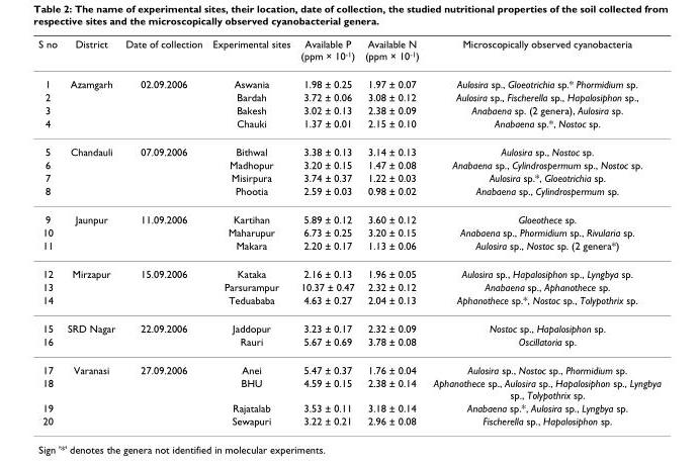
<table><thead><tr><td>S no</td><td>District</td><td>Date of collection</td><td>Experimental sites</td><td>Available P (ppm × 10<sup>-1</sup>)</td><td>Available N (ppm × 10<sup>-1</sup>)</td><td>Microscopically observed cyanobacteria</td></tr></thead><tbody><tr><td>1</td><td>Azamgarh</td><td>02.09.2006</td><td>Aswania</td><td>1.98 ± 0.25</td><td>1.97 ± 0.07</td><td>Aulosira sp., Gloeotrichia sp.* Phormidium sp.</td></tr><tr><td>2</td><td></td><td></td><td>Bardah</td><td>3.72 ± 0.06</td><td>3.08 ± 0.12</td><td>Aulosira sp., Fischerella sp., Hapalosiphon sp.,</td></tr><tr><td>3</td><td></td><td></td><td>Bakesh</td><td>3.02 ± 0.13</td><td>2.38 ± 0.09</td><td>Anabaena sp. (2 genera), Aulosira sp.</td></tr><tr><td>4</td><td></td><td></td><td>Chauki</td><td>1.37 ± 0.01</td><td>2.15 ± 0.10</td><td>Anabaena sp.*, Nostoc sp.</td></tr><tr><td>5</td><td>Chandauli</td><td>07.09.2006</td><td>Bithwal</td><td>3.38 ± 0.13</td><td>3.14 ± 0.13</td><td>Aulosira sp., Nostoc sp.</td></tr><tr><td>6</td><td></td><td></td><td>Madhopur</td><td>3.20 ± 0.15</td><td>1.47 ± 0.08</td><td>Anabaena sp., Cylindrospermum sp., Nostoc sp.</td></tr><tr><td>7</td><td></td><td></td><td>Misirpura</td><td>3.74 ± 0.37</td><td>1.22 ± 0.03</td><td>Aulosira sp.*, Gloeotrichia sp.</td></tr><tr><td>8</td><td></td><td></td><td>Phootia</td><td>2.59 ± 0.03</td><td>0.98 ± 0.02</td><td>Anabaena sp., Cylindrospermum sp.</td></tr><tr><td>9</td><td>Jaunpur</td><td>11.09.2006</td><td>Kartihan</td><td>5.89 ± 0.12</td><td>3.60 ± 0.12</td><td>Gloeothece sp.</td></tr><tr><td>10</td><td></td><td></td><td>Maharupur</td><td>6.73 ± 0.25</td><td>3.20 ± 0.15</td><td>Anabaena sp., Phormidium sp., Rivularia sp.</td></tr><tr><td>11</td><td></td><td></td><td>Makara</td><td>2.20 ± 0.17</td><td>1.13 ± 0.06</td><td>Aulosira sp., Nostoc sp. (2 genera*)</td></tr><tr><td>12</td><td>Mirzapur</td><td>15.09.2006</td><td>Kataka</td><td>2.16 ± 0.13</td><td>1.96 ± 0.05</td><td>Aulosira sp., Hapalosiphon sp., Lyngbya sp.</td></tr><tr><td>13</td><td></td><td></td><td>Parsurampur</td><td>10.37 ± 0.47</td><td>2.32 ± 0.12</td><td>Anabaena sp., Aphanothece sp.</td></tr><tr><td>14</td><td></td><td></td><td>Teduababa</td><td>4.63 ± 0.27</td><td>2.04 ± 0.13</td><td>Aphanothece sp.*, Nostoc sp., Tolypothrix sp.</td></tr><tr><td>15</td><td>SRD Nagar</td><td>22.09.2006</td><td>Jaddopur</td><td>3.23 ± 0.17</td><td>2.32 ± 0.09</td><td>Nostoc sp., Hapalosiphon sp.</td></tr><tr><td>16</td><td></td><td></td><td>Rauri</td><td>5.67 ± 0.69</td><td>3.78 ± 0.08</td><td>Oscillatoria sp.</td></tr><tr><td>17</td><td>Varanasi</td><td>27.09.2006</td><td>Anei</td><td>5.47 ± 0.37</td><td>1.76 ± 0.04</td><td>Aulosira sp., Nostoc sp., Phormidium sp.</td></tr><tr><td>18</td><td></td><td></td><td>BHU</td><td>4.59 ± 0.15</td><td>2.38 ± 0.14</td><td>Aphanothece sp., Aulosira sp., Hapalosiphon sp., Lyngbya sp., Tolypothrix sp.</td></tr><tr><td>19</td><td></td><td></td><td>Rajatalab</td><td>3.53 ± 0.11</td><td>3.18 ± 0.14</td><td>Anabaena sp.*, Aulosira sp., Lyngbya sp.</td></tr><tr><td>20</td><td></td><td></td><td>Sewapuri</td><td>3.22 ± 0.21</td><td>2.96 ± 0.08</td><td>Fischerella sp., Hapalosiphon sp.</td></tr></tbody></table>